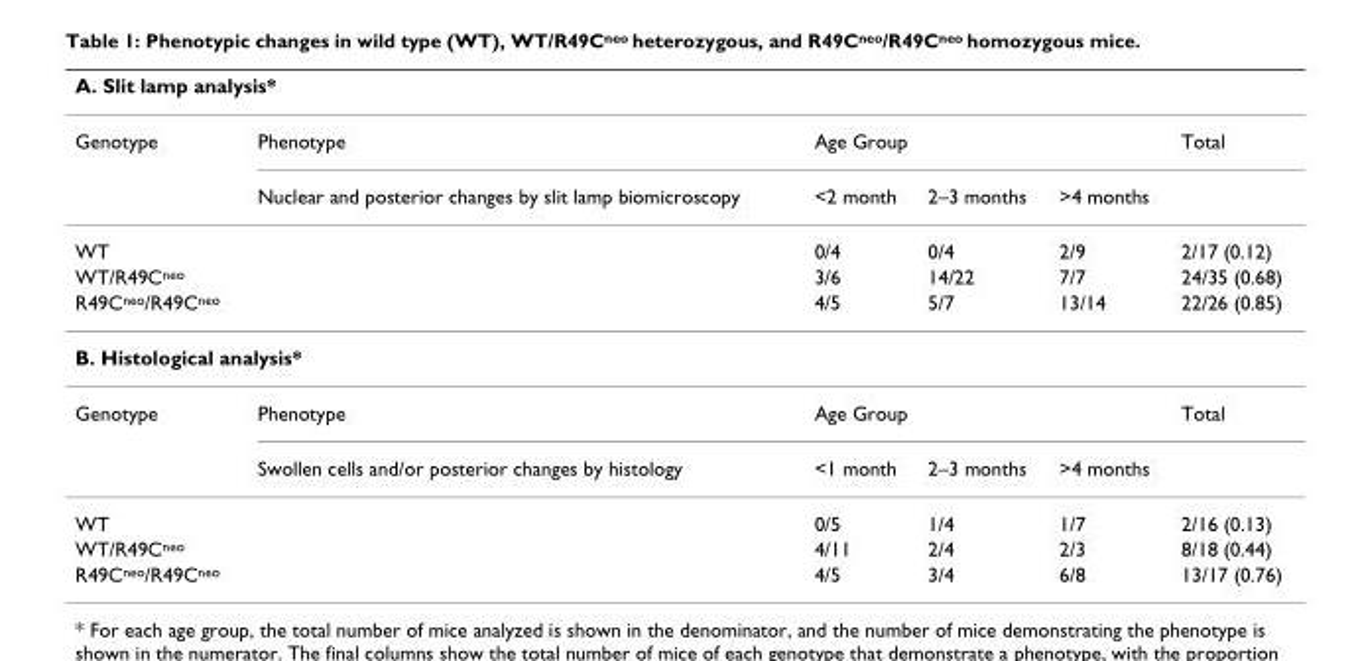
<table><thead><tr><td colspan="6">A. Slit lamp analysis*</td></tr><tr><td rowspan="2">Genotype</td><td rowspan="2">Phenotype Nuclear and posterior changes by slit lamp biomicroscopy</td><td colspan="3">Age Group</td><td rowspan="2">Total</td></tr><tr><td>&lt;2 month</td><td>2–3 months</td><td>&gt;4 months</td></tr></thead><tbody><tr><td>WT</td><td></td><td>0/4</td><td>0/4</td><td>2/9</td><td>2/17 (0.12)</td></tr><tr><td>WT/R49C<sup>neo</sup></td><td></td><td>3/6</td><td>14/22</td><td>7/7</td><td>24/35 (0.68)</td></tr><tr><td>R49C<sup>neo</sup>/R49C<sup>neo</sup></td><td></td><td>4/5</td><td>5/7</td><td>13/14</td><td>22/26 (0.85)</td></tr><tr><td colspan="6">B. Histological analysis*</td></tr><tr><td rowspan="2">Genotype</td><td>Phenotype</td><td colspan="3">Age Group</td><td>Total</td></tr><tr><td>Swollen cells and/or posterior changes by histology</td><td>&lt;1 month</td><td>2–3 months</td><td>&gt;4 months</td><td></td></tr><tr><td>WT</td><td></td><td>0/5</td><td>1/4</td><td>1/7</td><td>2/16 (0.13)</td></tr><tr><td>WT/R49C<sup>neo</sup></td><td></td><td>4/11</td><td>2/4</td><td>2/3</td><td>8/18 (0.44)</td></tr><tr><td>R49C<sup>neo</sup>/R49C<sup>neo</sup></td><td></td><td>4/5</td><td>3/4</td><td>6/8</td><td>13/17 (0.76)</td></tr></tbody></table>